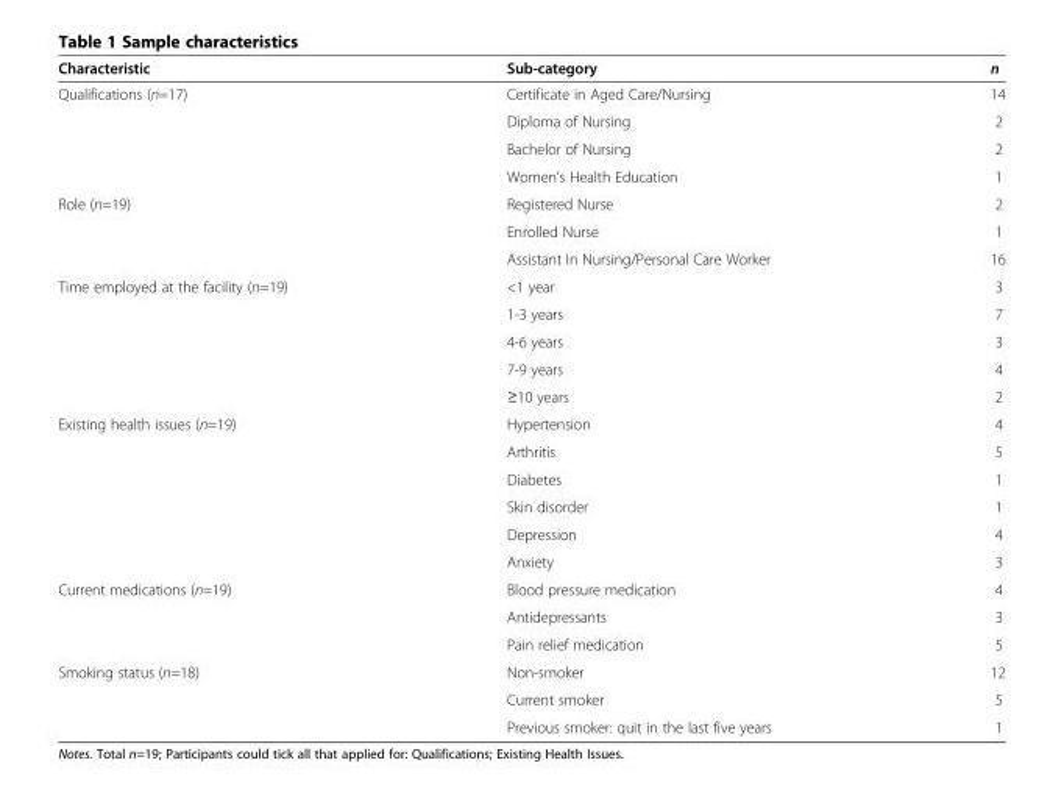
<table><thead><tr><td>Characteristic</td><td>Sub-category</td><td>n</td></tr></thead><tbody><tr><td rowspan="4">Qualifications (n=17)</td><td>Certificate in Aged Care/Nursing</td><td>14</td></tr><tr><td>Diploma of Nursing</td><td>2</td></tr><tr><td>Bachelor of Nursing</td><td>2</td></tr><tr><td>Women’s Health Education</td><td>1</td></tr><tr><td rowspan="3">Role (n=19)</td><td>Registered Nurse</td><td>2</td></tr><tr><td>Enrolled Nurse</td><td>1</td></tr><tr><td>Assistant In Nursing/Personal Care Worker</td><td>16</td></tr><tr><td rowspan="5">Time employed at the facility (n=19)</td><td>&lt;1 year</td><td>3</td></tr><tr><td>1-3 years</td><td>7</td></tr><tr><td>4-6 years</td><td>3</td></tr><tr><td>7-9 years</td><td>4</td></tr><tr><td>≥10 years</td><td>2</td></tr><tr><td rowspan="6">Existing health issues (n=19)</td><td>Hypertension</td><td>4</td></tr><tr><td>Arthritis</td><td>5</td></tr><tr><td>Diabetes</td><td>1</td></tr><tr><td>Skin disorder</td><td>1</td></tr><tr><td>Depression</td><td>4</td></tr><tr><td>Anxiety</td><td>3</td></tr><tr><td rowspan="3">Current medications (n=19)</td><td>Blood pressure medication</td><td>4</td></tr><tr><td>Antidepressants</td><td>3</td></tr><tr><td>Pain relief medication</td><td>5</td></tr><tr><td rowspan="3">Smoking status (n=18)</td><td>Non-smoker</td><td>12</td></tr><tr><td>Current smoker</td><td>5</td></tr><tr><td>Previous smoker: quit in the last five years</td><td>1</td></tr></tbody></table>